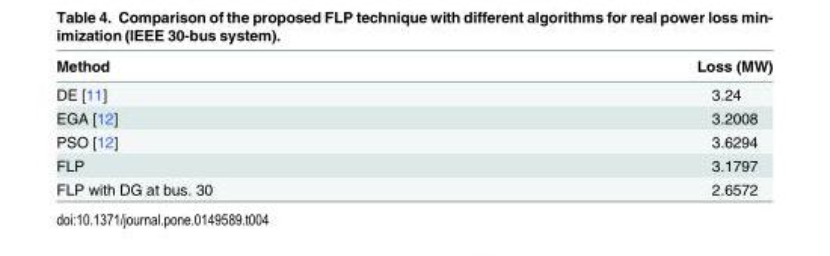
<table><thead><tr><td>Method</td><td>Loss (MW)</td></tr></thead><tbody><tr><td>DE [11]</td><td>3.24</td></tr><tr><td>EGA [12]</td><td>3.2008</td></tr><tr><td>PSO [12]</td><td>3.6294</td></tr><tr><td>FLP</td><td>3.1797</td></tr><tr><td>FLP with DG at bus. 30</td><td>2.6572</td></tr></tbody></table>